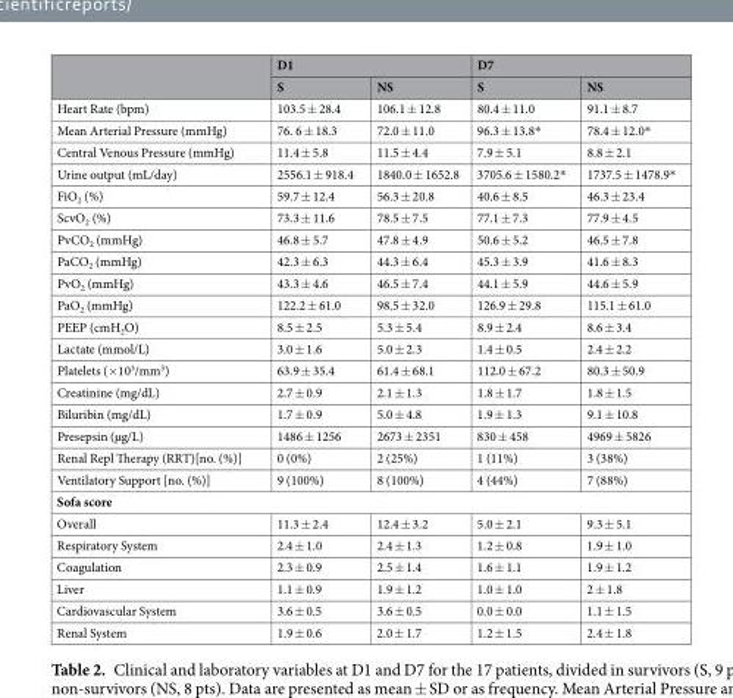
<table><thead><tr><td rowspan="2"></td><td colspan="2">D1</td><td colspan="2">D7</td></tr><tr><td>S</td><td>NS</td><td>S</td><td>NS</td></tr></thead><tbody><tr><td>Heart Rate (bpm)</td><td>103.5 ± 28.4</td><td>106.1 ± 12.8</td><td>80.4 ± 11.0</td><td>91.1 ± 8.7</td></tr><tr><td>Mean Arterial Pressure (mmHg)</td><td>76. 6 ± 18.3</td><td>72.0 ± 11.0</td><td>96.3 ± 13.8*</td><td>78.4 ± 12.0*</td></tr><tr><td>Central Venous Pressure (mmHg)</td><td>11.4 ± 5.8</td><td>11.5 ± 4.4</td><td>7.9 ± 5.1</td><td>8.8 ± 2.1</td></tr><tr><td>Urine output (mL/day)</td><td>2556.1 ± 918.4</td><td>1840.0 ± 1652.8</td><td>3705.6 ± 1580.2*</td><td>1737.5 ± 1478.9*</td></tr><tr><td>FiO<sub>2</sub> (%)</td><td>59.7 ± 12.4</td><td>56.3 ± 20.8</td><td>40.6 ± 8.5</td><td>46.3 ± 23.4</td></tr><tr><td>ScvO<sub>2</sub> (%)</td><td>73.3 ± 11.6</td><td>78.5 ± 7.5</td><td>77.1 ± 7.3</td><td>77.9 ± 4.5</td></tr><tr><td>PvCO<sub>2</sub> (mmHg)</td><td>46.8 ± 5.7</td><td>47.8 ± 4.9</td><td>50.6 ± 5.2</td><td>46.5 ± 7.8</td></tr><tr><td>PaCO<sub>2</sub> (mmHg)</td><td>42.3 ± 6.3</td><td>44.3 ± 6.4</td><td>45.3 ± 3.9</td><td>41.6 ± 8.3</td></tr><tr><td>PvO<sub>2</sub> (mmHg)</td><td>43.3 ± 4.6</td><td>46.5 ± 7.4</td><td>44.1 ± 5.9</td><td>44.6 ± 5.9</td></tr><tr><td>PaO<sub>2</sub> (mmHg)</td><td>122.2 ± 61.0</td><td>98.5 ± 32.0</td><td>126.9 ± 29.8</td><td>115.1 ± 61.0</td></tr><tr><td>PEEP (cmH<sub>2</sub>O)</td><td>8.5 ± 2.5</td><td>5.3 ± 5.4</td><td>8.9 ± 2.4</td><td>8.6 ± 3.4</td></tr><tr><td>Lactate (mmol/L)</td><td>3.0 ± 1.6</td><td>5.0 ± 2.3</td><td>1.4 ± 0.5</td><td>2.4 ± 2.2</td></tr><tr><td>Platelets (×10<sup>3</sup>/mm<sup>3</sup>)</td><td>63.9 ± 35.4</td><td>61.4 ± 68.1</td><td>112.0 ± 67.2</td><td>80.3 ± 50.9</td></tr><tr><td>Creatinine (mg/dL)</td><td>2.7 ± 0.9</td><td>2.1 ± 1.3</td><td>1.8 ± 1.7</td><td>1.8 ± 1.5</td></tr><tr><td>Biluribin (mg/dL)</td><td>1.7 ± 0.9</td><td>5.0 ± 4.8</td><td>1.9 ± 1.3</td><td>9.1 ± 10.8</td></tr><tr><td>Presepsin (µg/L)</td><td>1486 ± 1256</td><td>2673 ± 2351</td><td>830 ± 458</td><td>4969 ± 5826</td></tr><tr><td>Renal Repl Therapy (RRT)[no. (%)]</td><td>0 (0%)</td><td>2 (25%)</td><td>1 (11%)</td><td>3 (38%)</td></tr><tr><td>Ventilatory Support [no. (%)]</td><td>9 (100%)</td><td>8 (100%)</td><td>4 (44%)</td><td>7 (88%)</td></tr><tr><td colspan="5">Sofa score</td></tr><tr><td>Overall</td><td>11.3 ± 2.4</td><td>12.4 ± 3.2</td><td>5.0 ± 2.1</td><td>9.3 ± 5.1</td></tr><tr><td>Respiratory System</td><td>2.4 ± 1.0</td><td>2.4 ± 1.3</td><td>1.2 ± 0.8</td><td>1.9 ± 1.0</td></tr><tr><td>Coagulation</td><td>2.3 ± 0.9</td><td>2.5 ± 1.4</td><td>1.6 ± 1.1</td><td>1.9 ± 1.2</td></tr><tr><td>Liver</td><td>1.1 ± 0.9</td><td>1.9 ± 1.2</td><td>1.0 ± 1.0</td><td>2 ± 1.8</td></tr><tr><td>Cardiovascular System</td><td>3.6 ± 0.5</td><td>3.6 ± 0.5</td><td>0.0 ± 0.0</td><td>1.1 ± 1.5</td></tr><tr><td>Renal System</td><td>1.9 ± 0.6</td><td>2.0 ± 1.7</td><td>1.2 ± 1.5</td><td>2.4 ± 1.8</td></tr></tbody></table>